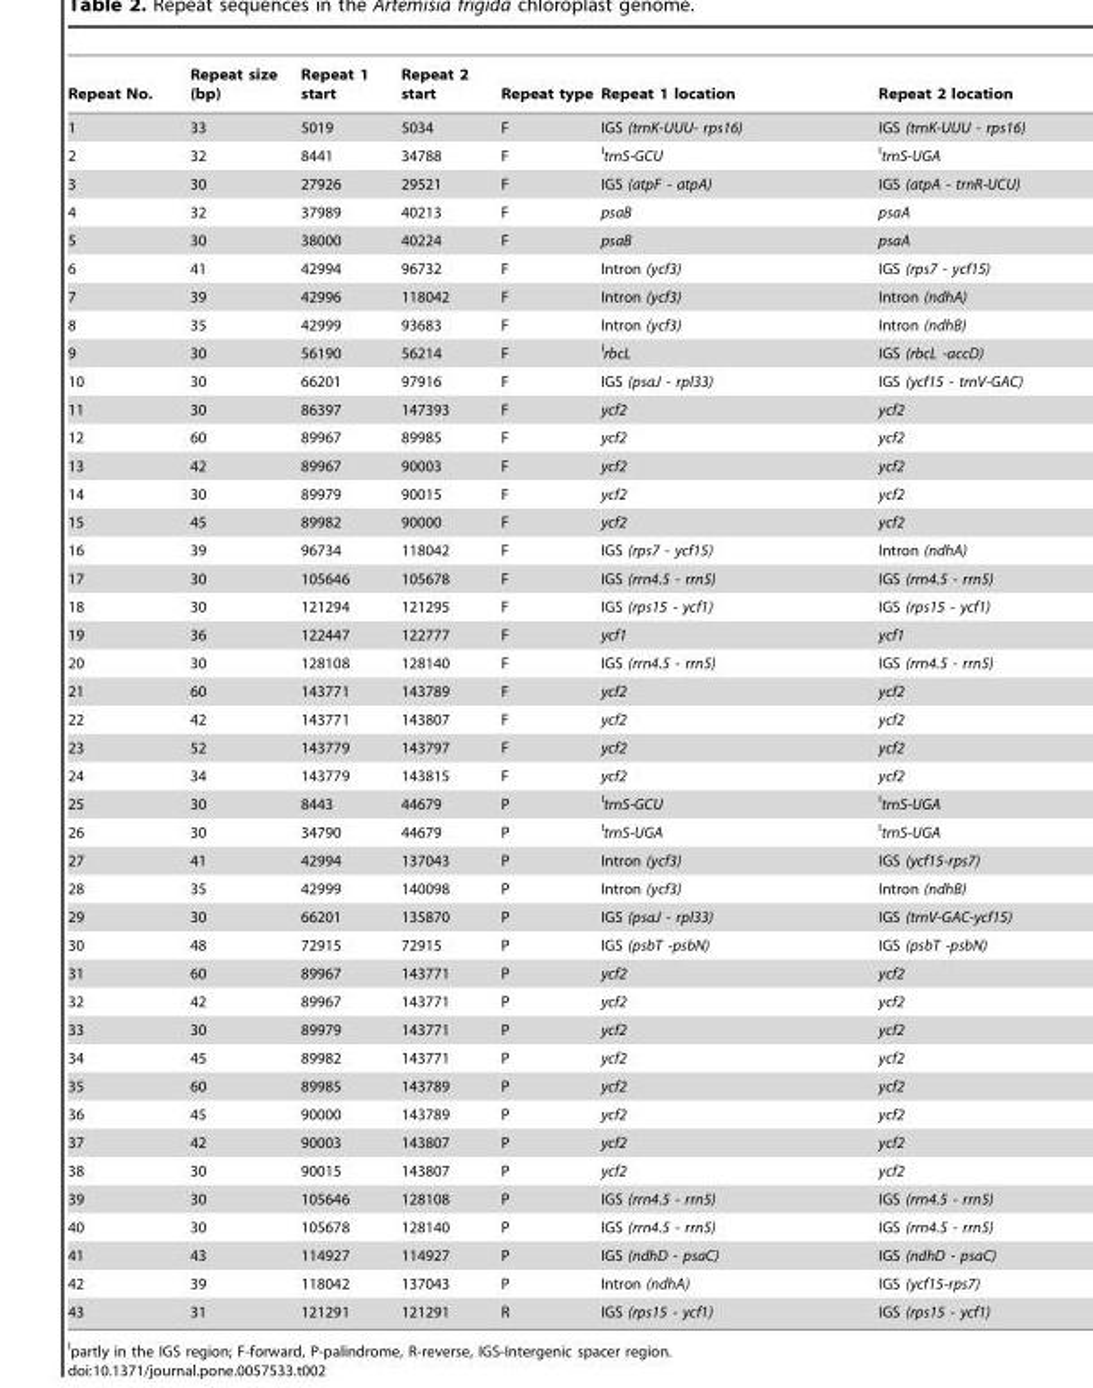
<table><thead><tr><td>Repeat No.</td><td>Repeat size (bp)</td><td>Repeat 1 start</td><td>Repeat 2 start</td><td>Repeat type</td><td>Repeat 1 location</td><td>Repeat 2 location</td></tr></thead><tbody><tr><td>1</td><td>33</td><td>5019</td><td>5034</td><td>F</td><td>IGS (trnK-UUU- rps16)</td><td>IGS (trnK-UUU - rps16)</td></tr><tr><td>2</td><td>32</td><td>8441</td><td>34788</td><td>F</td><td>ItrnS-GCU</td><td>ItrnS-UGA</td></tr><tr><td>3</td><td>30</td><td>27926</td><td>29521</td><td>F</td><td>IGS (atpF - atpA)</td><td>IGS (atpA - trnR-UCU)</td></tr><tr><td>4</td><td>32</td><td>37989</td><td>40213</td><td>F</td><td>psaB</td><td>psaA</td></tr><tr><td>5</td><td>30</td><td>38000</td><td>40224</td><td>F</td><td>psaB</td><td>psaA</td></tr><tr><td>6</td><td>41</td><td>42994</td><td>96732</td><td>F</td><td>Intron (ycf3)</td><td>IGS (rps7 - ycf15)</td></tr><tr><td>7</td><td>39</td><td>42996</td><td>118042</td><td>F</td><td>Intron (ycf3)</td><td>Intron (ndhA)</td></tr><tr><td>8</td><td>35</td><td>42999</td><td>93683</td><td>F</td><td>Intron (ycf3)</td><td>Intron (ndhB)</td></tr><tr><td>9</td><td>30</td><td>56190</td><td>56214</td><td>F</td><td>IrbcL</td><td>IGS (rbcL -accD)</td></tr><tr><td>10</td><td>30</td><td>66201</td><td>97916</td><td>F</td><td>IGS (psaJ - rpl33)</td><td>IGS (ycf15 - trnV-GAC)</td></tr><tr><td>11</td><td>30</td><td>86397</td><td>147393</td><td>F</td><td>ycf2</td><td>ycf2</td></tr><tr><td>12</td><td>60</td><td>89967</td><td>89985</td><td>F</td><td>ycf2</td><td>ycf2</td></tr><tr><td>13</td><td>42</td><td>89967</td><td>90003</td><td>F</td><td>ycf2</td><td>ycf2</td></tr><tr><td>14</td><td>30</td><td>89979</td><td>90015</td><td>F</td><td>ycf2</td><td>ycf2</td></tr><tr><td>15</td><td>45</td><td>89982</td><td>90000</td><td>F</td><td>ycf2</td><td>ycf2</td></tr><tr><td>16</td><td>39</td><td>96734</td><td>118042</td><td>F</td><td>IGS (rps7 - ycf15)</td><td>Intron (ndhA)</td></tr><tr><td>17</td><td>30</td><td>105646</td><td>105678</td><td>F</td><td>IGS (rrn4.5 - rrn5)</td><td>IGS (rrn4.5 - rrn5)</td></tr><tr><td>18</td><td>30</td><td>121294</td><td>121295</td><td>F</td><td>IGS (rps15 - ycf1)</td><td>IGS (rps15 - ycf1)</td></tr><tr><td>19</td><td>36</td><td>122447</td><td>122777</td><td>F</td><td>ycf1</td><td>ycf1</td></tr><tr><td>20</td><td>30</td><td>128108</td><td>128140</td><td>F</td><td>IGS (rrn4.5 - rrn5)</td><td>IGS (rrn4.5 - rrn5)</td></tr><tr><td>21</td><td>60</td><td>143771</td><td>143789</td><td>F</td><td>ycf2</td><td>ycf2</td></tr><tr><td>22</td><td>42</td><td>143771</td><td>143807</td><td>F</td><td>ycf2</td><td>ycf2</td></tr><tr><td>23</td><td>52</td><td>143779</td><td>143797</td><td>F</td><td>ycf2</td><td>ycf2</td></tr><tr><td>24</td><td>34</td><td>143779</td><td>143815</td><td>F</td><td>ycf2</td><td>ycf2</td></tr><tr><td>25</td><td>30</td><td>8443</td><td>44679</td><td>P</td><td>ItrnS-GCU</td><td>ItrnS-UGA</td></tr><tr><td>26</td><td>30</td><td>34790</td><td>44679</td><td>P</td><td>ItrnS-UGA</td><td>ItrnS-UGA</td></tr><tr><td>27</td><td>41</td><td>42994</td><td>137043</td><td>P</td><td>Intron (ycf3)</td><td>IGS (ycf15-rps7)</td></tr><tr><td>28</td><td>35</td><td>42999</td><td>140098</td><td>P</td><td>Intron (ycf3)</td><td>Intron (ndhB)</td></tr><tr><td>29</td><td>30</td><td>66201</td><td>135870</td><td>P</td><td>IGS (psaJ - rpl33)</td><td>IGS (trnV-GAC-ycf15)</td></tr><tr><td>30</td><td>48</td><td>72915</td><td>72915</td><td>P</td><td>IGS (psbT -psbN)</td><td>IGS (psbT -psbN)</td></tr><tr><td>31</td><td>60</td><td>89967</td><td>143771</td><td>P</td><td>ycf2</td><td>ycf2</td></tr><tr><td>32</td><td>42</td><td>89967</td><td>143771</td><td>P</td><td>ycf2</td><td>ycf2</td></tr><tr><td>33</td><td>30</td><td>89979</td><td>143771</td><td>P</td><td>ycf2</td><td>ycf2</td></tr><tr><td>34</td><td>45</td><td>89982</td><td>143771</td><td>P</td><td>ycf2</td><td>ycf2</td></tr><tr><td>35</td><td>60</td><td>89985</td><td>143789</td><td>P</td><td>ycf2</td><td>ycf2</td></tr><tr><td>36</td><td>45</td><td>90000</td><td>143789</td><td>P</td><td>ycf2</td><td>ycf2</td></tr><tr><td>37</td><td>42</td><td>90003</td><td>143807</td><td>P</td><td>ycf2</td><td>ycf2</td></tr><tr><td>38</td><td>30</td><td>90015</td><td>143807</td><td>P</td><td>ycf2</td><td>ycf2</td></tr><tr><td>39</td><td>30</td><td>105646</td><td>128108</td><td>P</td><td>IGS (rrn4.5 - rrn5)</td><td>IGS (rrn4.5 - rrn5)</td></tr><tr><td>40</td><td>30</td><td>105678</td><td>128140</td><td>P</td><td>IGS (rrn4.5 - rrn5)</td><td>IGS (rrn4.5 - rrn5)</td></tr><tr><td>41</td><td>43</td><td>114927</td><td>114927</td><td>P</td><td>IGS (ndhD - psaC)</td><td>IGS (ndhD - psaC)</td></tr><tr><td>42</td><td>39</td><td>118042</td><td>137043</td><td>P</td><td>Intron (ndhA)</td><td>IGS (ycf15-rps7)</td></tr><tr><td>43</td><td>31</td><td>121291</td><td>121291</td><td>R</td><td>IGS (rps15 - ycf1)</td><td>IGS (rps15 - ycf1)</td></tr></tbody></table>